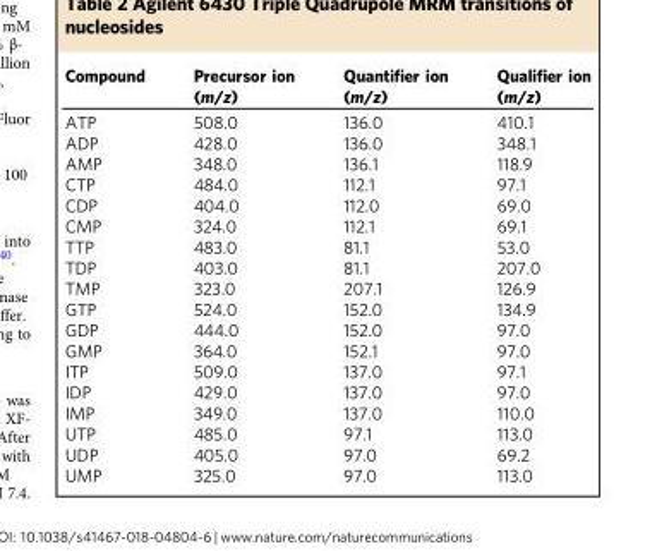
<table><thead><tr><td>Compound</td><td>Precursor ion (m/z)</td><td>Quantifier ion (m/z)</td><td>Qualifier ion (m/z)</td></tr></thead><tbody><tr><td>ATP</td><td>508.0</td><td>136.0</td><td>410.1</td></tr><tr><td>ADP</td><td>428.0</td><td>136.0</td><td>348.1</td></tr><tr><td>AMP</td><td>348.0</td><td>136.1</td><td>118.9</td></tr><tr><td>CTP</td><td>484.0</td><td>112.1</td><td>97.1</td></tr><tr><td>CDP</td><td>404.0</td><td>112.0</td><td>69.0</td></tr><tr><td>CMP</td><td>324.0</td><td>112.1</td><td>69.1</td></tr><tr><td>TTP</td><td>483.0</td><td>81.1</td><td>53.0</td></tr><tr><td>TDP</td><td>403.0</td><td>81.1</td><td>207.0</td></tr><tr><td>TMP</td><td>323.0</td><td>207.1</td><td>126.9</td></tr><tr><td>GTP</td><td>524.0</td><td>152.0</td><td>134.9</td></tr><tr><td>GDP</td><td>444.0</td><td>152.0</td><td>97.0</td></tr><tr><td>GMP</td><td>364.0</td><td>152.1</td><td>97.0</td></tr><tr><td>ITP</td><td>509.0</td><td>137.0</td><td>97.1</td></tr><tr><td>IDP</td><td>429.0</td><td>137.0</td><td>97.0</td></tr><tr><td>IMP</td><td>349.0</td><td>137.0</td><td>110.0</td></tr><tr><td>UTP</td><td>485.0</td><td>97.1</td><td>113.0</td></tr><tr><td>UDP</td><td>405.0</td><td>97.0</td><td>69.2</td></tr><tr><td>UMP</td><td>325.0</td><td>97.0</td><td>113.0</td></tr></tbody></table>